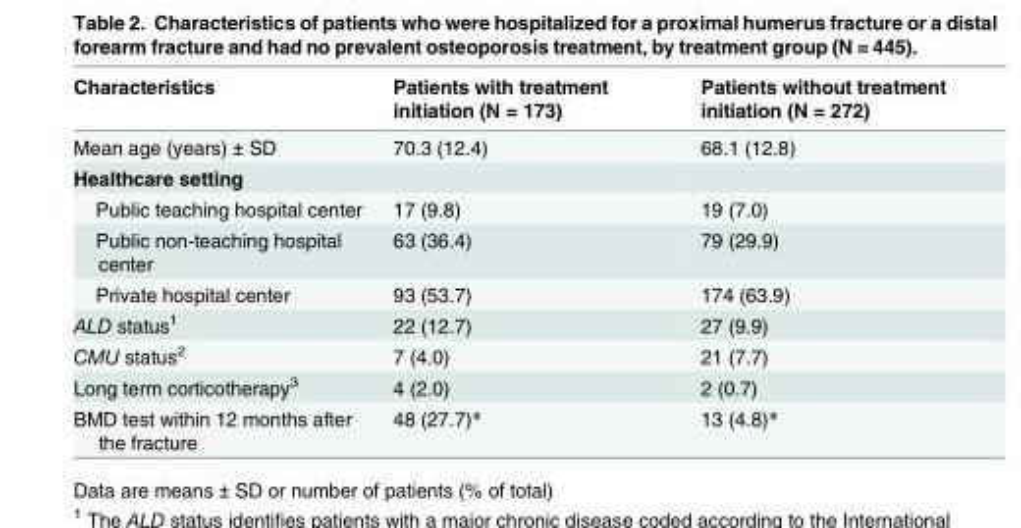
<table><thead><tr><td>Characteristics</td><td>Patients with treatment initiation (N = 173)</td><td>Patients without treatment initiation (N = 272)</td></tr></thead><tbody><tr><td>Mean age (years) ± SD</td><td>70.3 (12.4)</td><td>68.1 (12.8)</td></tr><tr><td colspan="3">Healthcare setting</td></tr><tr><td>Public teaching hospital center</td><td>17 (9.8)</td><td>19 (7.0)</td></tr><tr><td>Public non-teaching hospital center</td><td>63 (36.4)</td><td>79 (29.9)</td></tr><tr><td>Private hospital center</td><td>93 (53.7)</td><td>174 (63.9)</td></tr><tr><td>ALD status<sup>1</sup></td><td>22 (12.7)</td><td>27 (9.9)</td></tr><tr><td>CMU status<sup>2</sup></td><td>7 (4.0)</td><td>21 (7.7)</td></tr><tr><td>Long term corticotherapy<sup>3</sup></td><td>4 (2.0)</td><td>2 (0.7)</td></tr><tr><td>BMD test within 12 months after the fracture</td><td>48 (27.7)*</td><td>13 (4.8)*</td></tr></tbody></table>